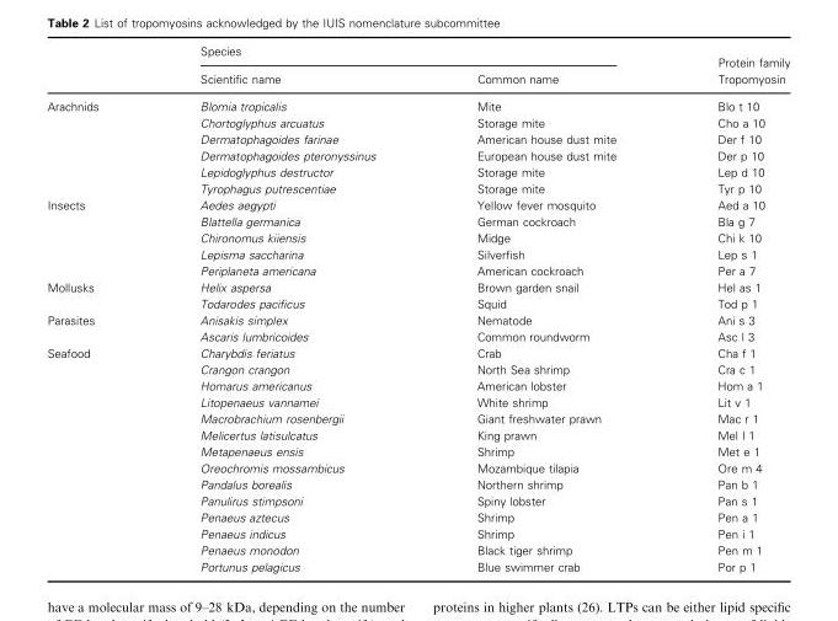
<table><thead><tr><td rowspan="2"></td><td colspan="2">Species</td><td rowspan="2">Protein family Tropomyosin</td></tr><tr><td>Scientific name</td><td>Common name</td></tr></thead><tbody><tr><td rowspan="6">Arachnids</td><td>Blomia tropicalis</td><td>Mite</td><td>Blo t 10</td></tr><tr><td>Chortoglyphus arcuatus</td><td>Storage mite</td><td>Cho a 10</td></tr><tr><td>Dermatophagoides farinae</td><td>American house dust mite</td><td>Der f 10</td></tr><tr><td>Dermatophagoides pteronyssinus</td><td>European house dust mite</td><td>Der p 10</td></tr><tr><td>Lepidoglyphus destructor</td><td>Storage mite</td><td>Lep d 10</td></tr><tr><td>Tyrophagus putrescentiae</td><td>Storage mite</td><td>Tyr p 10</td></tr><tr><td rowspan="5">Insects</td><td>Aedes aegypti</td><td>Yellow fever mosquito</td><td>Aed a 10</td></tr><tr><td>Blattella germanica</td><td>German cockroach</td><td>Bla g 7</td></tr><tr><td>Chironomus kiiensis</td><td>Midge</td><td>Chi k 10</td></tr><tr><td>Lepisma saccharina</td><td>Silverfish</td><td>Lep s 1</td></tr><tr><td>Periplaneta americana</td><td>American cockroach</td><td>Per a 7</td></tr><tr><td rowspan="2">Mollusks</td><td>Helix aspersa</td><td>Brown garden snail</td><td>Hel as 1</td></tr><tr><td>Todarodes pacificus</td><td>Squid</td><td>Tod p 1</td></tr><tr><td rowspan="2">Parasites</td><td>Anisakis simplex</td><td>Nematode</td><td>Ani s 3</td></tr><tr><td>Ascaris lumbricoides</td><td>Common roundworm</td><td>Asc l 3</td></tr><tr><td rowspan="14">Seafood</td><td>Charybdis feriatus</td><td>Crab</td><td>Cha f 1</td></tr><tr><td>Crangon crangon</td><td>North Sea shrimp</td><td>Cra c 1</td></tr><tr><td>Homarus americanus</td><td>American lobster</td><td>Hom a 1</td></tr><tr><td>Litopenaeus vannamei</td><td>White shrimp</td><td>Lit v 1</td></tr><tr><td>Macrobrachium rosenbergii</td><td>Giant freshwater prawn</td><td>Mac r 1</td></tr><tr><td>Melicertus latisulcatus</td><td>King prawn</td><td>Mel l 1</td></tr><tr><td>Metapenaeus ensis</td><td>Shrimp</td><td>Met e 1</td></tr><tr><td>Oreochromis mossambicus</td><td>Mozambique tilapia</td><td>Ore m 4</td></tr><tr><td>Pandalus borealis</td><td>Northern shrimp</td><td>Pan b 1</td></tr><tr><td>Panulirus stimpsoni</td><td>Spiny lobster</td><td>Pan s 1</td></tr><tr><td>Penaeus aztecus</td><td>Shrimp</td><td>Pen a 1</td></tr><tr><td>Penaeus indicus</td><td>Shrimp</td><td>Pen i 1</td></tr><tr><td>Penaeus monodon</td><td>Black tiger shrimp</td><td>Pen m 1</td></tr><tr><td>Portunus pelagicus</td><td>Blue swimmer crab</td><td>Por p 1</td></tr></tbody></table>